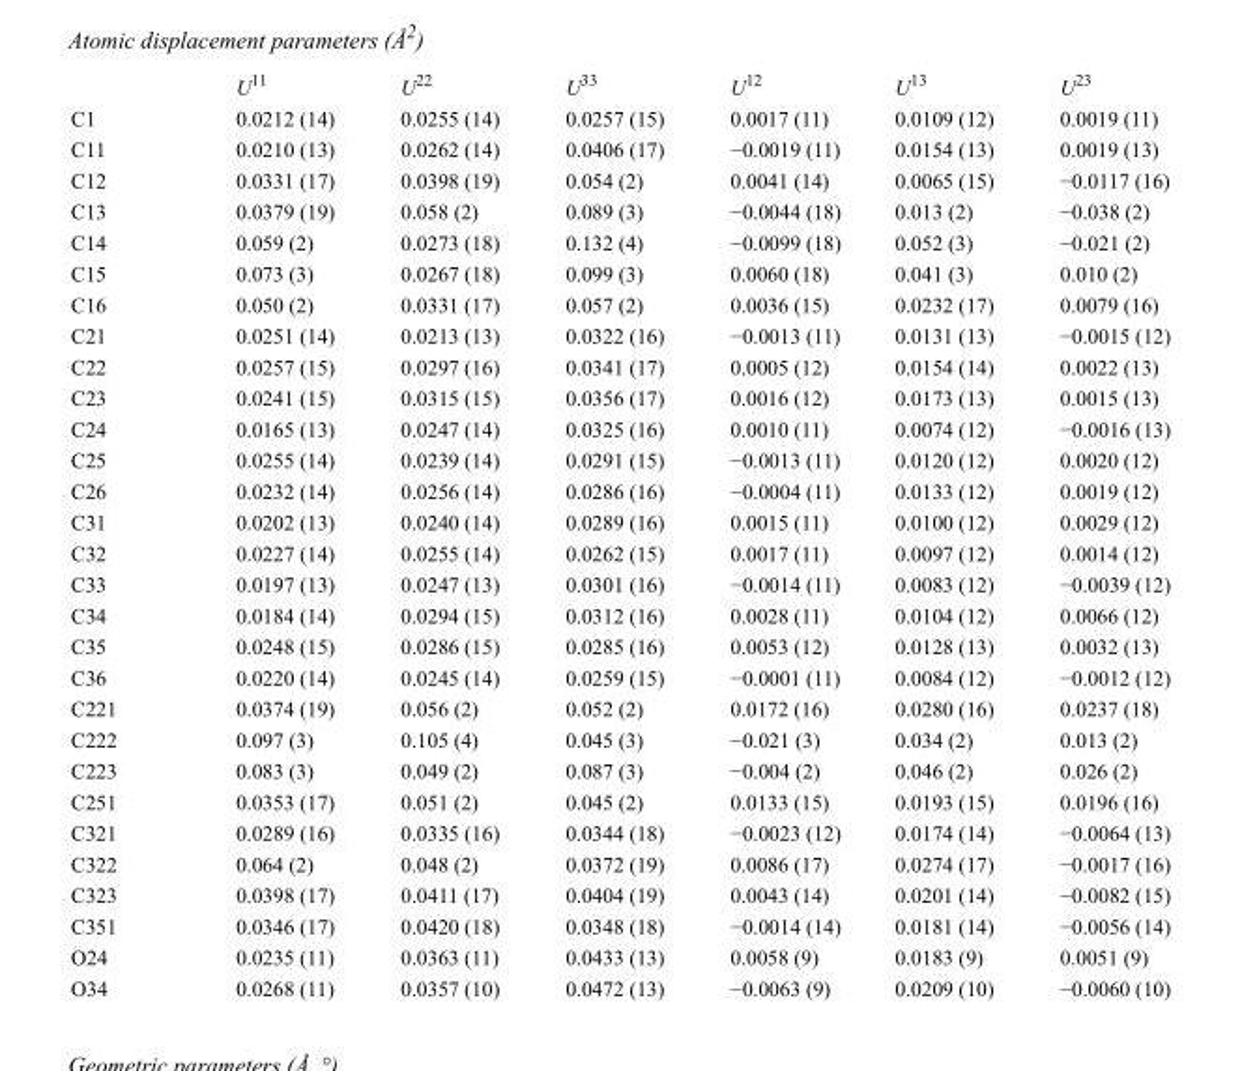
<table><thead><tr><td></td><td>U<sup>11</sup></td><td>U<sup>22</sup></td><td>U<sup>33</sup></td><td>U<sup>12</sup></td><td>U<sup>13</sup></td><td>U<sup>23</sup></td></tr></thead><tbody><tr><td>C1</td><td>0.0212 (14)</td><td>0.0255 (14)</td><td>0.0257 (15)</td><td>0.0017 (11)</td><td>0.0109 (12)</td><td>0.0019 (11)</td></tr><tr><td>C11</td><td>0.0210 (13)</td><td>0.0262 (14)</td><td>0.0406 (17)</td><td>−0.0019 (11)</td><td>0.0154 (13)</td><td>0.0019 (13)</td></tr><tr><td>C12</td><td>0.0331 (17)</td><td>0.0398 (19)</td><td>0.054 (2)</td><td>0.0041 (14)</td><td>0.0065 (15)</td><td>−0.0117 (16)</td></tr><tr><td>C13</td><td>0.0379 (19)</td><td>0.058 (2)</td><td>0.089 (3)</td><td>−0.0044 (18)</td><td>0.013 (2)</td><td>−0.038 (2)</td></tr><tr><td>C14</td><td>0.059 (2)</td><td>0.0273 (18)</td><td>0.132 (4)</td><td>−0.0099 (18)</td><td>0.052 (3)</td><td>−0.021 (2)</td></tr><tr><td>C15</td><td>0.073 (3)</td><td>0.0267 (18)</td><td>0.099 (3)</td><td>0.0060 (18)</td><td>0.041 (3)</td><td>0.010 (2)</td></tr><tr><td>C16</td><td>0.050 (2)</td><td>0.0331 (17)</td><td>0.057 (2)</td><td>0.0036 (15)</td><td>0.0232 (17)</td><td>0.0079 (16)</td></tr><tr><td>C21</td><td>0.0251 (14)</td><td>0.0213 (13)</td><td>0.0322 (16)</td><td>−0.0013 (11)</td><td>0.0131 (13)</td><td>−0.0015 (12)</td></tr><tr><td>C22</td><td>0.0257 (15)</td><td>0.0297 (16)</td><td>0.0341 (17)</td><td>0.0005 (12)</td><td>0.0154 (14)</td><td>0.0022 (13)</td></tr><tr><td>C23</td><td>0.0241 (15)</td><td>0.0315 (15)</td><td>0.0356 (17)</td><td>0.0016 (12)</td><td>0.0173 (13)</td><td>0.0015 (13)</td></tr><tr><td>C24</td><td>0.0165 (13)</td><td>0.0247 (14)</td><td>0.0325 (16)</td><td>0.0010 (11)</td><td>0.0074 (12)</td><td>−0.0016 (13)</td></tr><tr><td>C25</td><td>0.0255 (14)</td><td>0.0239 (14)</td><td>0.0291 (15)</td><td>−0.0013 (11)</td><td>0.0120 (12)</td><td>0.0020 (12)</td></tr><tr><td>C26</td><td>0.0232 (14)</td><td>0.0256 (14)</td><td>0.0286 (16)</td><td>−0.0004 (11)</td><td>0.0133 (12)</td><td>0.0019 (12)</td></tr><tr><td>C31</td><td>0.0202 (13)</td><td>0.0240 (14)</td><td>0.0289 (16)</td><td>0.0015 (11)</td><td>0.0100 (12)</td><td>0.0029 (12)</td></tr><tr><td>C32</td><td>0.0227 (14)</td><td>0.0255 (14)</td><td>0.0262 (15)</td><td>0.0017 (11)</td><td>0.0097 (12)</td><td>0.0014 (12)</td></tr><tr><td>C33</td><td>0.0197 (13)</td><td>0.0247 (13)</td><td>0.0301 (16)</td><td>−0.0014 (11)</td><td>0.0083 (12)</td><td>−0.0039 (12)</td></tr><tr><td>C34</td><td>0.0184 (14)</td><td>0.0294 (15)</td><td>0.0312 (16)</td><td>0.0028 (11)</td><td>0.0104 (12)</td><td>0.0066 (12)</td></tr><tr><td>C35</td><td>0.0248 (15)</td><td>0.0286 (15)</td><td>0.0285 (16)</td><td>0.0053 (12)</td><td>0.0128 (13)</td><td>0.0032 (13)</td></tr><tr><td>C36</td><td>0.0220 (14)</td><td>0.0245 (14)</td><td>0.0259 (15)</td><td>−0.0001 (11)</td><td>0.0084 (12)</td><td>−0.0012 (12)</td></tr><tr><td>C221</td><td>0.0374 (19)</td><td>0.056 (2)</td><td>0.052 (2)</td><td>0.0172 (16)</td><td>0.0280 (16)</td><td>0.0237 (18)</td></tr><tr><td>C222</td><td>0.097 (3)</td><td>0.105 (4)</td><td>0.045 (3)</td><td>−0.021 (3)</td><td>0.034 (2)</td><td>0.013 (2)</td></tr><tr><td>C223</td><td>0.083 (3)</td><td>0.049 (2)</td><td>0.087 (3)</td><td>−0.004 (2)</td><td>0.046 (2)</td><td>0.026 (2)</td></tr><tr><td>C251</td><td>0.0353 (17)</td><td>0.051 (2)</td><td>0.045 (2)</td><td>0.0133 (15)</td><td>0.0193 (15)</td><td>0.0196 (16)</td></tr><tr><td>C321</td><td>0.0289 (16)</td><td>0.0335 (16)</td><td>0.0344 (18)</td><td>−0.0023 (12)</td><td>0.0174 (14)</td><td>−0.0064 (13)</td></tr><tr><td>C322</td><td>0.064 (2)</td><td>0.048 (2)</td><td>0.0372 (19)</td><td>0.0086 (17)</td><td>0.0274 (17)</td><td>−0.0017 (16)</td></tr><tr><td>C323</td><td>0.0398 (17)</td><td>0.0411 (17)</td><td>0.0404 (19)</td><td>0.0043 (14)</td><td>0.0201 (14)</td><td>−0.0082 (15)</td></tr><tr><td>C351</td><td>0.0346 (17)</td><td>0.0420 (18)</td><td>0.0348 (18)</td><td>−0.0014 (14)</td><td>0.0181 (14)</td><td>−0.0056 (14)</td></tr><tr><td>O24</td><td>0.0235 (11)</td><td>0.0363 (11)</td><td>0.0433 (13)</td><td>0.0058 (9)</td><td>0.0183 (9)</td><td>0.0051 (9)</td></tr><tr><td>O34</td><td>0.0268 (11)</td><td>0.0357 (10)</td><td>0.0472 (13)</td><td>−0.0063 (9)</td><td>0.0209 (10)</td><td>−0.0060 (10)</td></tr></tbody></table>